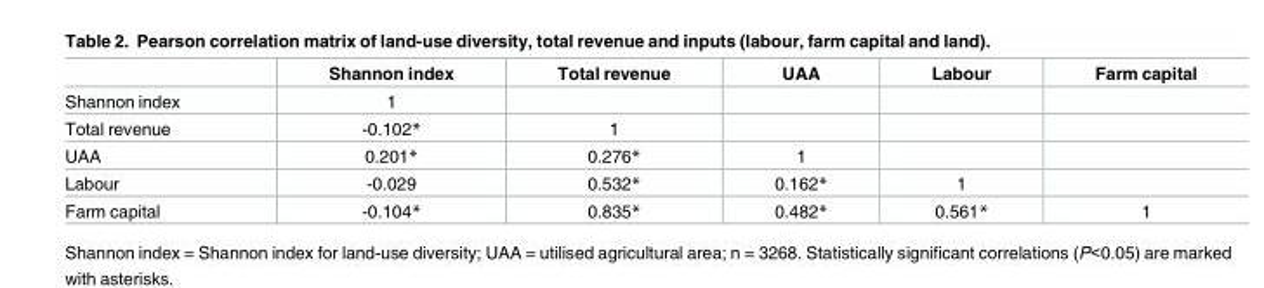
<table><thead><tr><td></td><td>Shannon index</td><td>Total revenue</td><td>UAA</td><td>Labour</td><td>Farm capital</td></tr></thead><tbody><tr><td>Shannon index</td><td>1</td><td></td><td></td><td></td><td></td></tr><tr><td>Total revenue</td><td>-0.102*</td><td>1</td><td></td><td></td><td></td></tr><tr><td>UAA</td><td>0.201*</td><td>0.276*</td><td>1</td><td></td><td></td></tr><tr><td>Labour</td><td>-0.029</td><td>0.532*</td><td>0.162*</td><td>1</td><td></td></tr><tr><td>Farm capital</td><td>-0.104*</td><td>0.835*</td><td>0.482*</td><td>0.561*</td><td>1</td></tr></tbody></table>